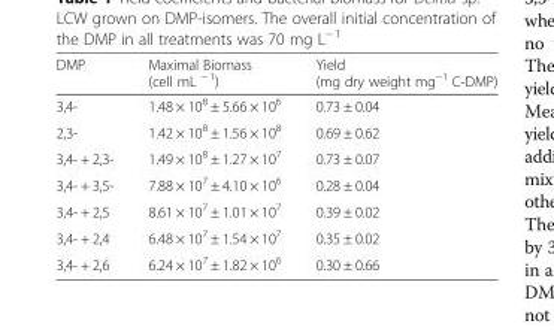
<table><thead><tr><td>DMP</td><td>Maximal Biomass (cell mL <sup>− 1</sup>)</td><td>Yield (mg dry weight mg<sup>−1</sup> C-DMP)</td></tr></thead><tbody><tr><td>3,4-</td><td>1.48 × 10<sup>8</sup> ± 5.66 × 10<sup>6</sup></td><td>0.73 ± 0.04</td></tr><tr><td>2,3-</td><td>1.42 × 10<sup>8</sup> ± 1.56 × 10<sup>8</sup></td><td>0.69 ± 0.62</td></tr><tr><td>3,4- + 2,3-</td><td>1.49 × 10<sup>8</sup> ± 1.27 × 10<sup>7</sup></td><td>0.73 ± 0.07</td></tr><tr><td>3,4- + 3,5-</td><td>7.88 × 10<sup>7</sup> ± 4.10 × 10<sup>6</sup></td><td>0.28 ± 0.04</td></tr><tr><td>3,4- + 2,5</td><td>8.61 × 10<sup>7</sup> ± 1.01 × 10<sup>7</sup></td><td>0.39 ± 0.02</td></tr><tr><td>3,4- + 2,4</td><td>6.48 × 10<sup>7</sup> ± 1.54 × 10<sup>7</sup></td><td>0.35 ± 0.02</td></tr><tr><td>3,4- + 2,6</td><td>6.24 × 10<sup>7</sup> ± 1.82 × 10<sup>6</sup></td><td>0.30 ± 0.66</td></tr></tbody></table>